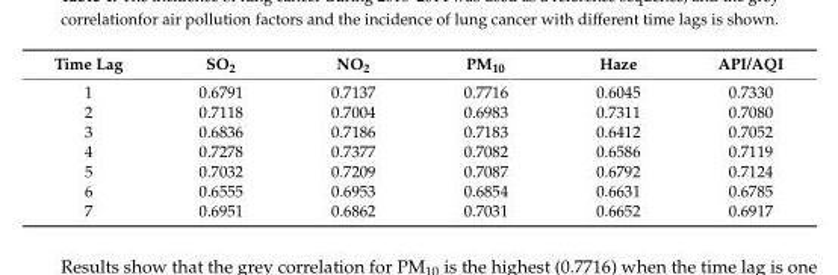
<table><thead><tr><td>Time Lag</td><td>SO<sub>2</sub></td><td>NO<sub>2</sub></td><td>PM<sub>10</sub></td><td>Haze</td><td>API/AQI</td></tr></thead><tbody><tr><td>1</td><td>0.6791</td><td>0.7137</td><td>0.7716</td><td>0.6045</td><td>0.7330</td></tr><tr><td>2</td><td>0.7118</td><td>0.7004</td><td>0.6983</td><td>0.7311</td><td>0.7080</td></tr><tr><td>3</td><td>0.6836</td><td>0.7186</td><td>0.7183</td><td>0.6412</td><td>0.7052</td></tr><tr><td>4</td><td>0.7278</td><td>0.7377</td><td>0.7082</td><td>0.6586</td><td>0.7119</td></tr><tr><td>5</td><td>0.7032</td><td>0.7209</td><td>0.7087</td><td>0.6792</td><td>0.7124</td></tr><tr><td>6</td><td>0.6555</td><td>0.6953</td><td>0.6854</td><td>0.6631</td><td>0.6785</td></tr><tr><td>7</td><td>0.6951</td><td>0.6862</td><td>0.7031</td><td>0.6652</td><td>0.6917</td></tr></tbody></table>